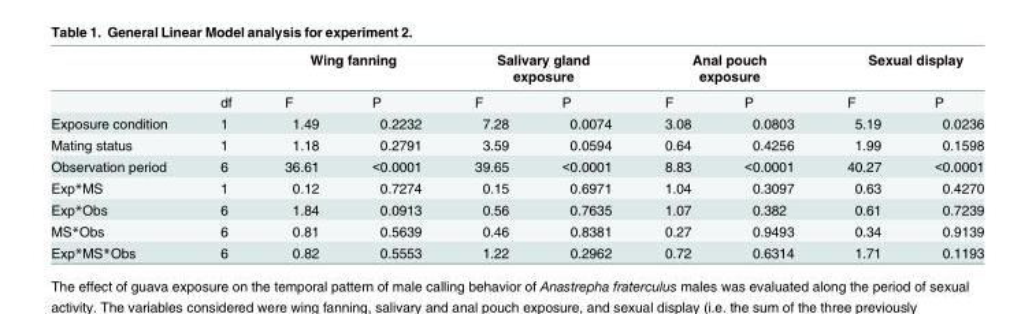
<table><thead><tr><td rowspan="2"></td><td rowspan="2">df</td><td colspan="2">Wing fanning</td><td colspan="2">Salivary gland exposure</td><td colspan="2">Anal pouch exposure</td><td colspan="2">Sexual display</td></tr><tr><td>F</td><td>P</td><td>F</td><td>P</td><td>F</td><td>P</td><td>F</td><td>P</td></tr></thead><tbody><tr><td>Exposure condition</td><td>1</td><td>1.49</td><td>0.2232</td><td>7.28</td><td>0.0074</td><td>3.08</td><td>0.0803</td><td>5.19</td><td>0.0236</td></tr><tr><td>Mating status</td><td>1</td><td>1.18</td><td>0.2791</td><td>3.59</td><td>0.0594</td><td>0.64</td><td>0.4256</td><td>1.99</td><td>0.1598</td></tr><tr><td>Observation period</td><td>6</td><td>36.61</td><td>&lt;0.0001</td><td>39.65</td><td>&lt;0.0001</td><td>8.83</td><td>&lt;0.0001</td><td>40.27</td><td>&lt;0.0001</td></tr><tr><td>Exp*MS</td><td>1</td><td>0.12</td><td>0.7274</td><td>0.15</td><td>0.6971</td><td>1.04</td><td>0.3097</td><td>0.63</td><td>0.4270</td></tr><tr><td>Exp*Obs</td><td>6</td><td>1.84</td><td>0.0913</td><td>0.56</td><td>0.7635</td><td>1.07</td><td>0.382</td><td>0.61</td><td>0.7239</td></tr><tr><td>MS*Obs</td><td>6</td><td>0.81</td><td>0.5639</td><td>0.46</td><td>0.8381</td><td>0.27</td><td>0.9493</td><td>0.34</td><td>0.9139</td></tr><tr><td>Exp*MS*Obs</td><td>6</td><td>0.82</td><td>0.5553</td><td>1.22</td><td>0.2962</td><td>0.72</td><td>0.6314</td><td>1.71</td><td>0.1193</td></tr></tbody></table>